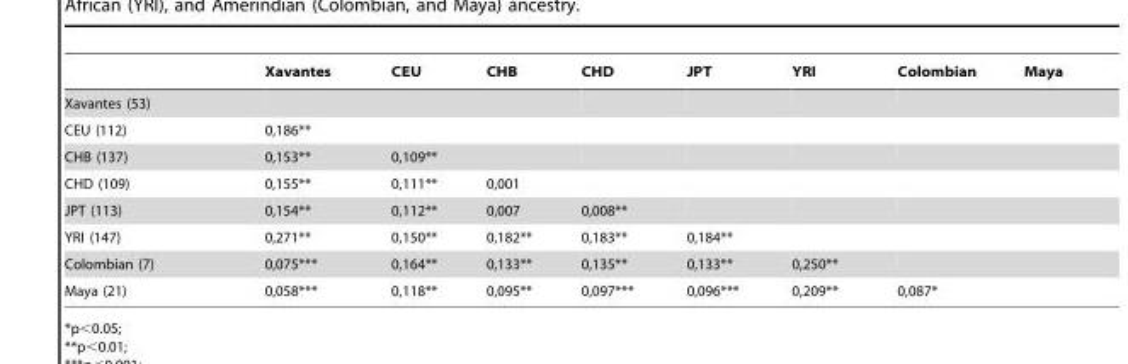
<table><thead><tr><td></td><td>Xavantes</td><td>CEU</td><td>CHB</td><td>CHD</td><td>JPT</td><td>YRI</td><td>Colombian</td><td>Maya</td></tr></thead><tbody><tr><td colspan="9">Xavantes (53)</td></tr><tr><td>CEU (112)</td><td>0,186**</td><td></td><td></td><td></td><td></td><td></td><td></td><td></td></tr><tr><td>CHB (137)</td><td>0,153**</td><td>0,109**</td><td></td><td></td><td></td><td></td><td></td><td></td></tr><tr><td>CHD (109)</td><td>0,155**</td><td>0,111**</td><td>0,001</td><td></td><td></td><td></td><td></td><td></td></tr><tr><td>JPT (113)</td><td>0,154**</td><td>0,112**</td><td>0,007</td><td>0,008**</td><td></td><td></td><td></td><td></td></tr><tr><td>YRI (147)</td><td>0,271**</td><td>0,150**</td><td>0,182**</td><td>0,183**</td><td>0,184**</td><td></td><td></td><td></td></tr><tr><td>Colombian (7)</td><td>0,075***</td><td>0,164**</td><td>0,133**</td><td>0,135**</td><td>0,133**</td><td>0,250**</td><td></td><td></td></tr><tr><td>Maya (21)</td><td>0,058***</td><td>0,118**</td><td>0,095**</td><td>0,097***</td><td>0,096***</td><td>0,209**</td><td>0,087*</td><td></td></tr></tbody></table>